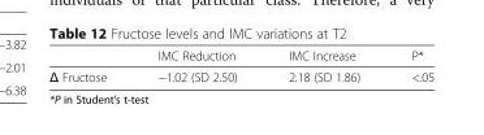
<table><thead><tr><td></td><td>IMC Reduction</td><td>IMC Increase</td><td>P*</td></tr></thead><tbody><tr><td>Δ Fructose</td><td>−1.02 (SD 2.50)</td><td>2.18 (SD 1.86)</td><td>&lt;.05</td></tr></tbody></table>